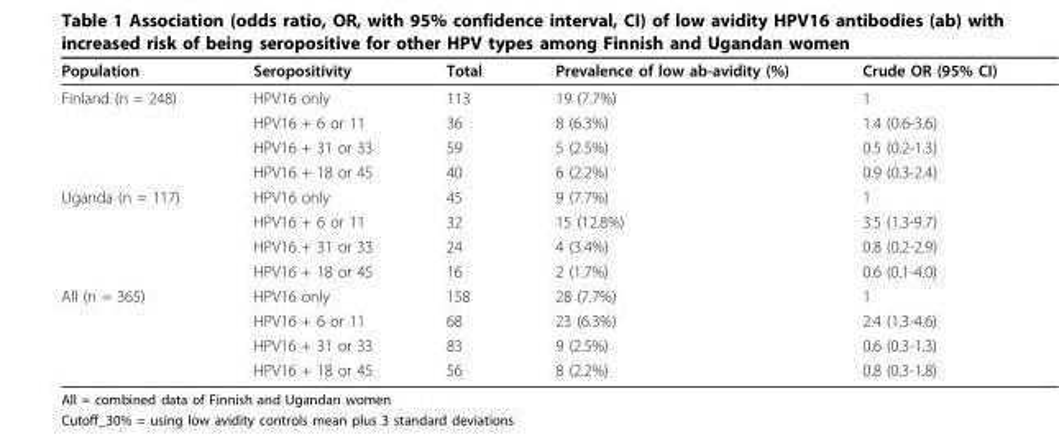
<table><thead><tr><td>Population</td><td>Seropositivity</td><td>Total</td><td>Prevalence of low ab-avidity (%)</td><td>Crude OR (95% CI)</td></tr></thead><tbody><tr><td rowspan="4">Finland (n = 248)</td><td>HPV16 only</td><td>113</td><td>19 (7.7%)</td><td>1</td></tr><tr><td>HPV16 + 6 or 11</td><td>36</td><td>8 (6.3%)</td><td>1.4 (0.6-3.6)</td></tr><tr><td>HPV16 + 31 or 33</td><td>59</td><td>5 (2.5%)</td><td>0.5 (0.2-1.3)</td></tr><tr><td>HPV16 + 18 or 45</td><td>40</td><td>6 (2.2%)</td><td>0.9 (0.3-2.4)</td></tr><tr><td rowspan="4">Uganda (n = 117)</td><td>HPV16 only</td><td>45</td><td>9 (7.7%)</td><td>1</td></tr><tr><td>HPV16 + 6 or 11</td><td>32</td><td>15 (12.8%)</td><td>3.5 (1.3-9.7)</td></tr><tr><td>HPV16 + 31 or 33</td><td>24</td><td>4 (3.4%)</td><td>0.8 (0.2-2.9)</td></tr><tr><td>HPV16 + 18 or 45</td><td>16</td><td>2 (1.7%)</td><td>0.6 (0.1-4.0)</td></tr><tr><td rowspan="4">All (n = 365)</td><td>HPV16 only</td><td>158</td><td>28 (7.7%)</td><td>1</td></tr><tr><td>HPV16 + 6 or 11</td><td>68</td><td>23 (6.3%)</td><td>2.4 (1.3-4.6)</td></tr><tr><td>HPV16 + 31 or 33</td><td>83</td><td>9 (2.5%)</td><td>0.6 (0.3-1.3)</td></tr><tr><td>HPV16 + 18 or 45</td><td>56</td><td>8 (2.2%)</td><td>0.8 (0.3-1.8)</td></tr></tbody></table>